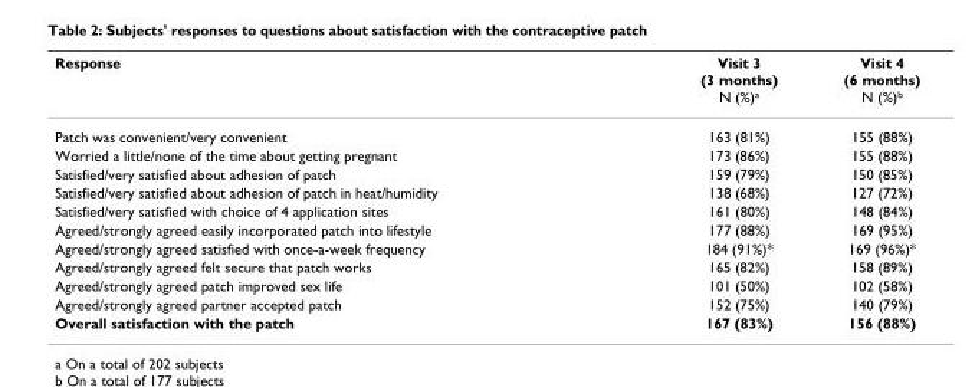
<table><thead><tr><td>Response</td><td>Visit 3 (3 months) N (%)<sup>a</sup></td><td>Visit 4 (6 months) N (%)<sup>b</sup></td></tr></thead><tbody><tr><td>Patch was convenient/very convenient</td><td>163 (81%)</td><td>155 (88%)</td></tr><tr><td>Worried a little/none of the time about getting pregnant</td><td>173 (86%)</td><td>155 (88%)</td></tr><tr><td>Satisfied/very satisfied about adhesion of patch</td><td>159 (79%)</td><td>150 (85%)</td></tr><tr><td>Satisfied/very satisfied about adhesion of patch in heat/humidity</td><td>138 (68%)</td><td>127 (72%)</td></tr><tr><td>Satisfied/very satisfied with choice of 4 application sites</td><td>161 (80%)</td><td>148 (84%)</td></tr><tr><td>Agreed/strongly agreed easily incorporated patch into lifestyle</td><td>177 (88%)</td><td>169 (95%)</td></tr><tr><td>Agreed/strongly agreed satisfied with once-a-week frequency</td><td>184 (91%)*</td><td>169 (96%)*</td></tr><tr><td>Agreed/strongly agreed felt secure that patch works</td><td>165 (82%)</td><td>158 (89%)</td></tr><tr><td>Agreed/strongly agreed patch improved sex life</td><td>101 (50%)</td><td>102 (58%)</td></tr><tr><td>Agreed/strongly agreed partner accepted patch</td><td>152 (75%)</td><td>140 (79%)</td></tr><tr><td>Overall satisfaction with the patch</td><td>167 (83%)</td><td>156 (88%)</td></tr></tbody></table>